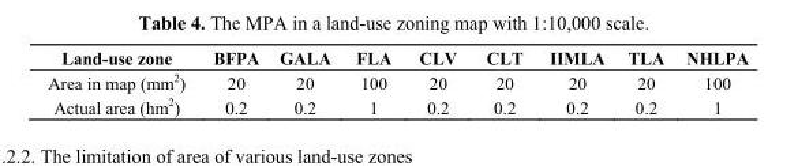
<table><thead><tr><td>Land-use zone</td><td>BFPA</td><td>GALA</td><td>FLA</td><td>CLV</td><td>CLT</td><td>IIMLA</td><td>TLA</td><td>NHLPA</td></tr></thead><tbody><tr><td>Area in map (mm<sup>2</sup>)</td><td>20</td><td>20</td><td>100</td><td>20</td><td>20</td><td>20</td><td>20</td><td>100</td></tr><tr><td>Actual area (hm<sup>2</sup>)</td><td>0.2</td><td>0.2</td><td>1</td><td>0.2</td><td>0.2</td><td>0.2</td><td>0.2</td><td>1</td></tr></tbody></table>